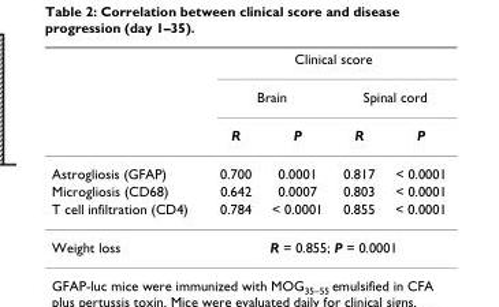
<table><thead><tr><td rowspan="3"></td><td colspan="4">Clinical score</td></tr><tr><td colspan="2">Brain</td><td colspan="2">Spinal cord</td></tr><tr><td>R</td><td>P</td><td>R</td><td>P</td></tr></thead><tbody><tr><td>Astrogliosis (GFAP)</td><td>0.700</td><td>0.0001</td><td>0.817</td><td>&lt; 0.0001</td></tr><tr><td>Microgliosis (CD68)</td><td>0.642</td><td>0.0007</td><td>0.803</td><td>&lt; 0.0001</td></tr><tr><td>T cell infiltration (CD4)</td><td>0.784</td><td>&lt; 0.0001</td><td>0.855</td><td>&lt; 0.0001</td></tr><tr><td>Weight loss</td><td colspan="4">R = 0.855; P = 0.0001</td></tr></tbody></table>